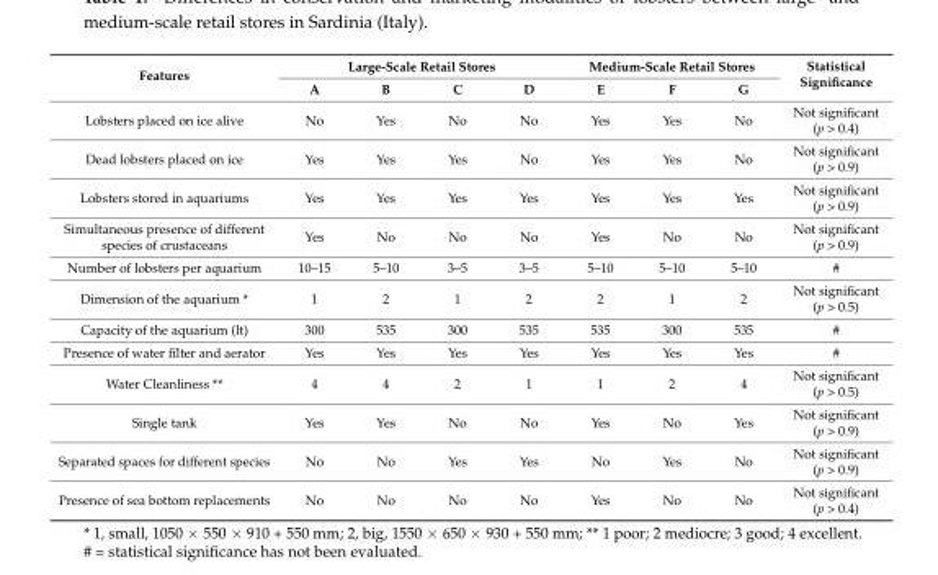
<table><thead><tr><td rowspan="2">Features</td><td colspan="4">Large-Scale Retail Stores</td><td colspan="3">Medium-Scale Retail Stores</td><td rowspan="2">Statistical Significance</td></tr><tr><td>A</td><td>B</td><td>C</td><td>D</td><td>E</td><td>F</td><td>G</td></tr></thead><tbody><tr><td>Lobsters placed on ice alive</td><td>No</td><td>Yes</td><td>No</td><td>No</td><td>Yes</td><td>Yes</td><td>No</td><td>Not significant (p &gt; 0.4)</td></tr><tr><td>Dead lobsters placed on ice</td><td>Yes</td><td>Yes</td><td>Yes</td><td>No</td><td>Yes</td><td>Yes</td><td>No</td><td>Not significant (p &gt; 0.9)</td></tr><tr><td>Lobsters stored in aquariums</td><td>Yes</td><td>Yes</td><td>Yes</td><td>Yes</td><td>Yes</td><td>Yes</td><td>Yes</td><td>Not significant (p &gt; 0.9)</td></tr><tr><td>Simultaneous presence of different species of crustaceans</td><td>Yes</td><td>No</td><td>No</td><td>No</td><td>Yes</td><td>No</td><td>No</td><td>Not significant (p &gt; 0.9)</td></tr><tr><td>Number of lobsters per aquarium</td><td>10–15</td><td>5–10</td><td>3–5</td><td>3–5</td><td>5–10</td><td>5–10</td><td>5–10</td><td>#</td></tr><tr><td>Dimension of the aquarium *</td><td>1</td><td>2</td><td>1</td><td>2</td><td>2</td><td>1</td><td>2</td><td>Not significant (p &gt; 0.5)</td></tr><tr><td>Capacity of the aquarium (lt)</td><td>300</td><td>535</td><td>300</td><td>535</td><td>535</td><td>300</td><td>535</td><td>#</td></tr><tr><td>Presence of water filter and aerator</td><td>Yes</td><td>Yes</td><td>Yes</td><td>Yes</td><td>Yes</td><td>Yes</td><td>Yes</td><td>#</td></tr><tr><td>Water Cleanliness **</td><td>4</td><td>4</td><td>2</td><td>1</td><td>1</td><td>2</td><td>4</td><td>Not significant (p &gt; 0.5)</td></tr><tr><td>Single tank</td><td>Yes</td><td>Yes</td><td>No</td><td>No</td><td>Yes</td><td>No</td><td>Yes</td><td>Not significant (p &gt; 0.9)</td></tr><tr><td>Separated spaces for different species</td><td>No</td><td>No</td><td>Yes</td><td>Yes</td><td>No</td><td>Yes</td><td>No</td><td>Not significant (p &gt; 0.9)</td></tr><tr><td>Presence of sea bottom replacements</td><td>No</td><td>No</td><td>No</td><td>No</td><td>Yes</td><td>No</td><td>No</td><td>Not significant (p &gt; 0.4)</td></tr></tbody></table>